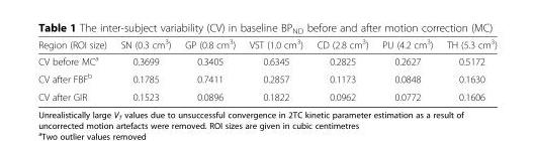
<table><thead><tr><td>Region (ROI size)</td><td>SN (0.3 cm<sup>3</sup>)</td><td>GP (0.8 cm<sup>3</sup>)</td><td>VST (1.0 cm<sup>3</sup>)</td><td>CD (2.8 cm<sup>3</sup>)</td><td>PU (4.2 cm<sup>3</sup>)</td><td>TH (5.3 cm<sup>3</sup>)</td></tr></thead><tbody><tr><td>CV before MC<sup>a</sup></td><td>0.3699</td><td>0.3405</td><td>0.6345</td><td>0.2825</td><td>0.2627</td><td>0.5172</td></tr><tr><td>CV after FBF<sup>b</sup></td><td>0.1785</td><td>0.7411</td><td>0.2857</td><td>0.1173</td><td>0.0848</td><td>0.1630</td></tr><tr><td>CV after GIR</td><td>0.1523</td><td>0.0896</td><td>0.1822</td><td>0.0962</td><td>0.0772</td><td>0.1606</td></tr></tbody></table>